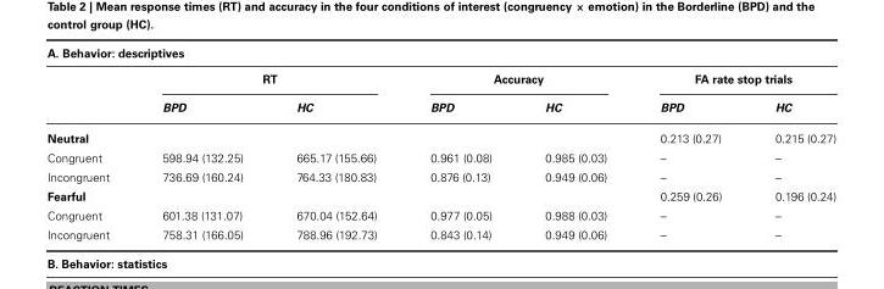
<table><thead><tr><td colspan="7">A. Behavior: descriptives</td></tr><tr><td rowspan="2"></td><td colspan="2">RT</td><td colspan="2">Accuracy</td><td colspan="2">FA rate stop trials</td></tr><tr><td>BPD</td><td>HC</td><td>BPD</td><td>HC</td><td>BPD</td><td>HC</td></tr></thead><tbody><tr><td>Neutral</td><td></td><td></td><td></td><td></td><td>0.213 (0.27)</td><td>0.215 (0.27)</td></tr><tr><td>Congruent</td><td>598.94 (132.25)</td><td>665.17 (155.66)</td><td>0.961 (0.08)</td><td>0.985 (0.03)</td><td>–</td><td>–</td></tr><tr><td>Incongruent</td><td>736.69 (160.24)</td><td>764.33 (180.83)</td><td>0.876 (0.13)</td><td>0.949 (0.06)</td><td>–</td><td>–</td></tr><tr><td>Fearful</td><td></td><td></td><td></td><td></td><td>0.259 (0.26)</td><td>0.196 (0.24)</td></tr><tr><td>Congruent</td><td>601.38 (131.07)</td><td>670.04 (152.64)</td><td>0.977 (0.05)</td><td>0.988 (0.03)</td><td>–</td><td>–</td></tr><tr><td>Incongruent</td><td>758.31 (166.05)</td><td>788.96 (192.73)</td><td>0.843 (0.14)</td><td>0.949 (0.06)</td><td>–</td><td>–</td></tr></tbody></table>